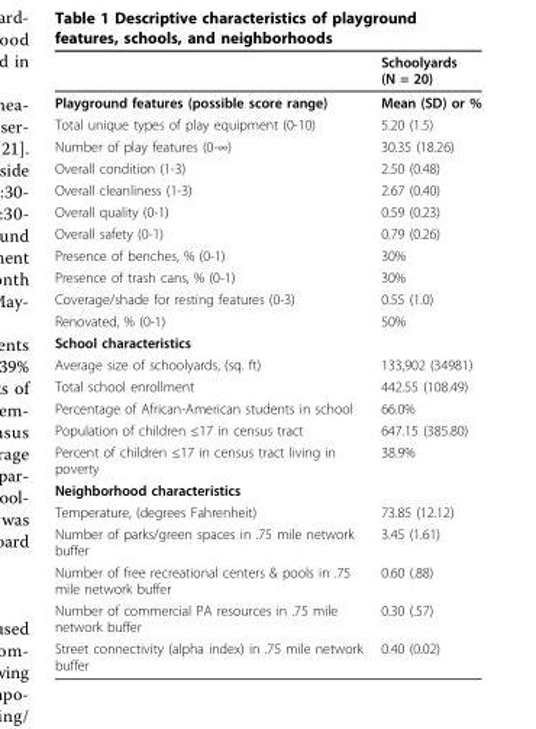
<table><thead><tr><td></td><td>Schoolyards (N = 20)</td></tr></thead><tbody><tr><td>Playground features (possible score range)</td><td>Mean (SD) or %</td></tr><tr><td>Total unique types of play equipment (0-10)</td><td>5.20 (1.5)</td></tr><tr><td>Number of play features (0-∞)</td><td>30.35 (18.26)</td></tr><tr><td>Overall condition (1-3)</td><td>2.50 (0.48)</td></tr><tr><td>Overall cleanliness (1-3)</td><td>2.67 (0.40)</td></tr><tr><td>Overall quality (0-1)</td><td>0.59 (0.23)</td></tr><tr><td>Overall safety (0-1)</td><td>0.79 (0.26)</td></tr><tr><td>Presence of benches, % (0-1)</td><td>30%</td></tr><tr><td>Presence of trash cans, % (0-1)</td><td>30%</td></tr><tr><td>Coverage/shade for resting features (0-3)</td><td>0.55 (1.0)</td></tr><tr><td>Renovated, % (0-1)</td><td>50%</td></tr><tr><td colspan="2">School characteristics</td></tr><tr><td>Average size of schoolyards, (sq. ft)</td><td>133,902 (34981)</td></tr><tr><td>Total school enrollment</td><td>442.55 (108.49)</td></tr><tr><td>Percentage of African-American students in school</td><td>66.0%</td></tr><tr><td>Population of children ≤17 in census tract</td><td>647.15 (385.80)</td></tr><tr><td>Percent of children ≤17 in census tract living in poverty</td><td>38.9%</td></tr><tr><td colspan="2">Neighborhood characteristics</td></tr><tr><td>Temperature, (degrees Fahrenheit)</td><td>73.85 (12.12)</td></tr><tr><td>Number of parks/green spaces in .75 mile network buffer</td><td>3.45 (1.61)</td></tr><tr><td>Number of free recreational centers &amp; pools in .75 mile network buffer</td><td>0.60 (.88)</td></tr><tr><td>Number of commercial PA resources in .75 mile network buffer</td><td>0.30 (.57)</td></tr><tr><td>Street connectivity (alpha index) in .75 mile network buffer</td><td>0.40 (0.02)</td></tr></tbody></table>